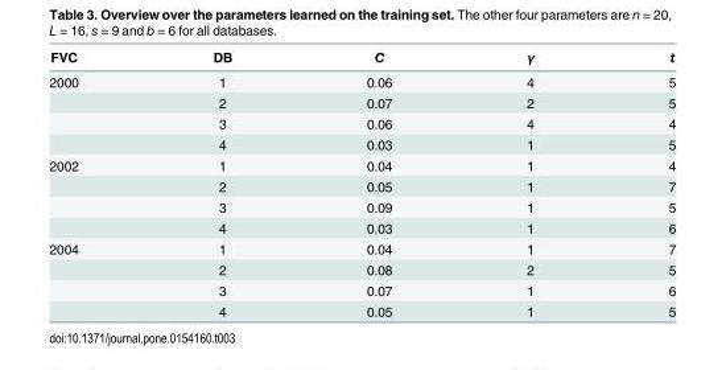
<table><thead><tr><td>FVC</td><td>DB</td><td>C</td><td>γ</td><td>t</td></tr></thead><tbody><tr><td rowspan="4">2000</td><td>1</td><td>0.06</td><td>4</td><td>5</td></tr><tr><td>2</td><td>0.07</td><td>2</td><td>5</td></tr><tr><td>3</td><td>0.06</td><td>4</td><td>4</td></tr><tr><td>4</td><td>0.03</td><td>1</td><td>5</td></tr><tr><td rowspan="4">2002</td><td>1</td><td>0.04</td><td>1</td><td>4</td></tr><tr><td>2</td><td>0.05</td><td>1</td><td>7</td></tr><tr><td>3</td><td>0.09</td><td>1</td><td>5</td></tr><tr><td>4</td><td>0.03</td><td>1</td><td>6</td></tr><tr><td rowspan="4">2004</td><td>1</td><td>0.04</td><td>1</td><td>7</td></tr><tr><td>2</td><td>0.08</td><td>2</td><td>5</td></tr><tr><td>3</td><td>0.07</td><td>1</td><td>6</td></tr><tr><td>4</td><td>0.05</td><td>1</td><td>5</td></tr></tbody></table>